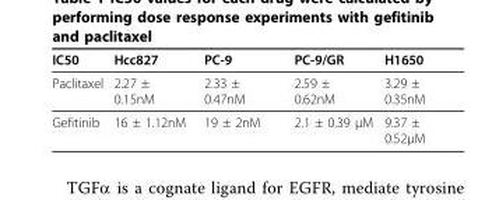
<table><thead><tr><td>IC50</td><td>Hcc827</td><td>PC-9</td><td>PC-9/GR</td><td>H1650</td></tr></thead><tbody><tr><td>Paclitaxel</td><td>2.27 ± 0.15nM</td><td>2.33 ± 0.47nM</td><td>2.59 ± 0.62nM</td><td>3.29 ± 0.35nM</td></tr><tr><td>Gefitinib</td><td>16 ± 1.12nM</td><td>19 ± 2nM</td><td>2.1 ± 0.39 μM</td><td>9.37 ± 0.52μM</td></tr></tbody></table>